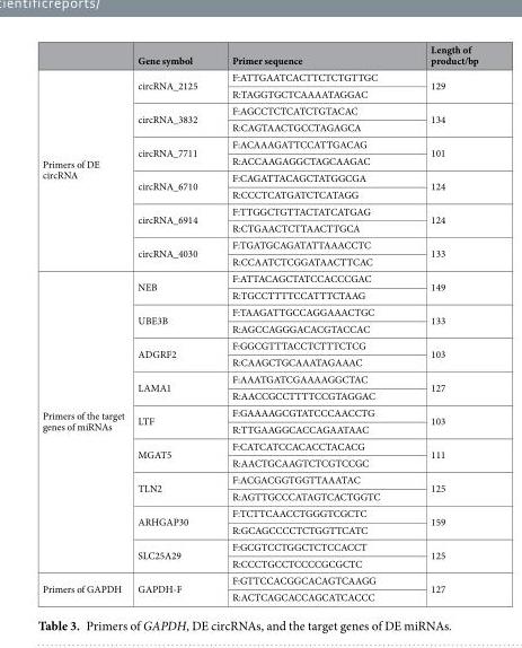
<table><thead><tr><td></td><td>Gene symbol</td><td>Primer sequence</td><td>Length of product/bp</td></tr></thead><tbody><tr><td rowspan="12">Primers of DE circRNA</td><td rowspan="2">circRNA_2125</td><td>F:ATTGAATCACTTCTCTGTTGC</td><td rowspan="2">129</td></tr><tr><td>R:TAGGTGCTCAAAATAGGAC</td></tr><tr><td rowspan="2">circRNA_3832</td><td>F:AGCCTCTCATCTGTACAC</td><td rowspan="2">134</td></tr><tr><td>R:CAGTAACTGCCTAGAGCA</td></tr><tr><td rowspan="2">circRNA_7711</td><td>F:ACAAAGATTCCATTGACAG</td><td rowspan="2">101</td></tr><tr><td>R:ACCAAGAGGCTAGCAAGAC</td></tr><tr><td rowspan="2">circRNA_6710</td><td>F:CAGATTACAGCTATGGCGA</td><td rowspan="2">124</td></tr><tr><td>R:CCCTCATGATCTCATAGG</td></tr><tr><td rowspan="2">circRNA_6914</td><td>F:TTGGCTGTTACTATCATGAG</td><td rowspan="2">124</td></tr><tr><td>R:CTGAACTCTTAACTTGCA</td></tr><tr><td rowspan="2">circRNA_4030</td><td>F:TGATGCAGATATTAAACCTC</td><td rowspan="2">133</td></tr><tr><td>R:CCAATCTCGGATAACTTCAC</td></tr><tr><td rowspan="18">Primers of the target genes of miRNAs</td><td rowspan="2">NEB</td><td>F:ATTACAGCTATCCACCCGAC</td><td rowspan="2">149</td></tr><tr><td>R:TGCCTTTTCCATTTCTAAG</td></tr><tr><td rowspan="2">UBE3B</td><td>F:TAAGATTGCCAGGAAACTGC</td><td rowspan="2">133</td></tr><tr><td>R:AGCCAGGGACACGTACCAC</td></tr><tr><td rowspan="2">ADGRF2</td><td>F:GGCGTTTACCTCTTTCTCG</td><td rowspan="2">103</td></tr><tr><td>R:CAAGCTGCAAATAGAAAC</td></tr><tr><td rowspan="2">LAMA1</td><td>F:AAATGATCGAAAAGGCTAC</td><td rowspan="2">127</td></tr><tr><td>R:AACCGCCTTTTCCGTAGGAC</td></tr><tr><td rowspan="2">LTF</td><td>F:GAAAAGCGTATCCCAACCTG</td><td rowspan="2">103</td></tr><tr><td>R:TTGAAGGCACCAGAATAAC</td></tr><tr><td rowspan="2">MGAT5</td><td>F:CATCATCCACACCTACACG</td><td rowspan="2">111</td></tr><tr><td>R:AACTGCAAGTCTCGTCCGC</td></tr><tr><td rowspan="2">TLN2</td><td>F:ACGACGGTGGTTAAATAC</td><td rowspan="2">125</td></tr><tr><td>R:AGTTGCCCATAGTCACTGGTC</td></tr><tr><td rowspan="2">ARHGAP30</td><td>F:TCTTCAACCTGGGTCGCTC</td><td rowspan="2">159</td></tr><tr><td>R:GCAGCCCCTCTGGTTCATC</td></tr><tr><td rowspan="2">SLC25A29</td><td>F:GCGTCCTGGCTCTCCACCT</td><td rowspan="2">125</td></tr><tr><td>R:CCCTGCCTCCCCGCGCTC</td></tr><tr><td rowspan="2">Primers of GAPDH</td><td rowspan="2">GAPDH-F</td><td>F:GTTCCACGGCACAGTCAAGG</td><td rowspan="2">127</td></tr><tr><td>R:ACTCAGCACCAGCATCACCC</td></tr></tbody></table>